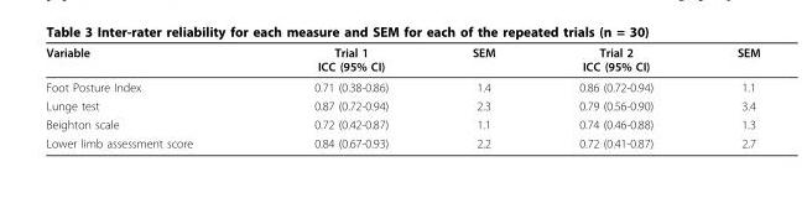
<table><thead><tr><td>Variable</td><td>Trial 1 ICC (95% CI)</td><td>SEM</td><td>Trial 2 ICC (95% CI)</td><td>SEM</td></tr></thead><tbody><tr><td>Foot Posture Index</td><td>0.71 (0.38-0.86)</td><td>1.4</td><td>0.86 (0.72-0.94)</td><td>1.1</td></tr><tr><td>Lunge test</td><td>0.87 (0.72-0.94)</td><td>2.3</td><td>0.79 (0.56-0.90)</td><td>3.4</td></tr><tr><td>Beighton scale</td><td>0.72 (0.42-0.87)</td><td>1.1</td><td>0.74 (0.46-0.88)</td><td>1.3</td></tr><tr><td>Lower limb assessment score</td><td>0.84 (0.67-0.93)</td><td>2.2</td><td>0.72 (0.41-0.87)</td><td>2.7</td></tr></tbody></table>